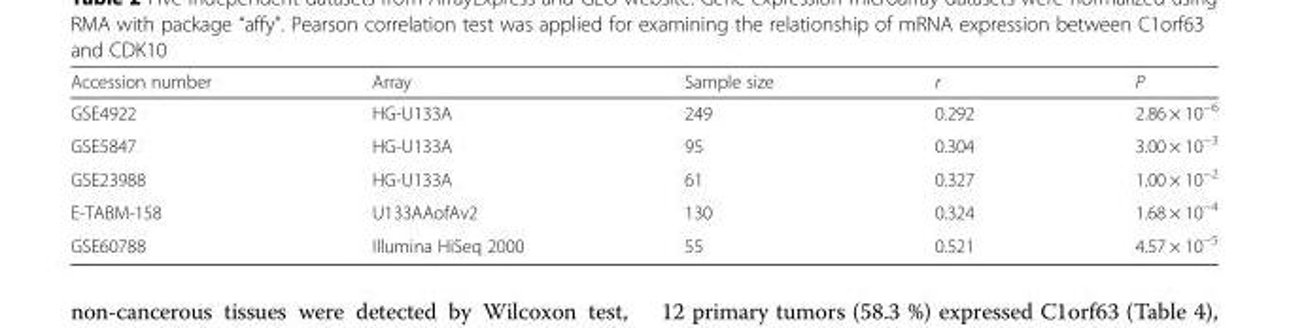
<table><thead><tr><td>Accession number</td><td>Array</td><td>Sample size</td><td>r</td><td>P</td></tr></thead><tbody><tr><td>GSE4922</td><td>HG-U133A</td><td>249</td><td>0.292</td><td>2.86 × 10<sup>−6</sup></td></tr><tr><td>GSE5847</td><td>HG-U133A</td><td>95</td><td>0.304</td><td>3.00 × 10<sup>−3</sup></td></tr><tr><td>GSE23988</td><td>HG-U133A</td><td>61</td><td>0.327</td><td>1.00 × 10<sup>−2</sup></td></tr><tr><td>E-TABM-158</td><td>U133AAofAv2</td><td>130</td><td>0.324</td><td>1.68 × 10<sup>−4</sup></td></tr><tr><td>GSE60788</td><td>Illumina HiSeq 2000</td><td>55</td><td>0.521</td><td>4.57 × 10<sup>−5</sup></td></tr></tbody></table>